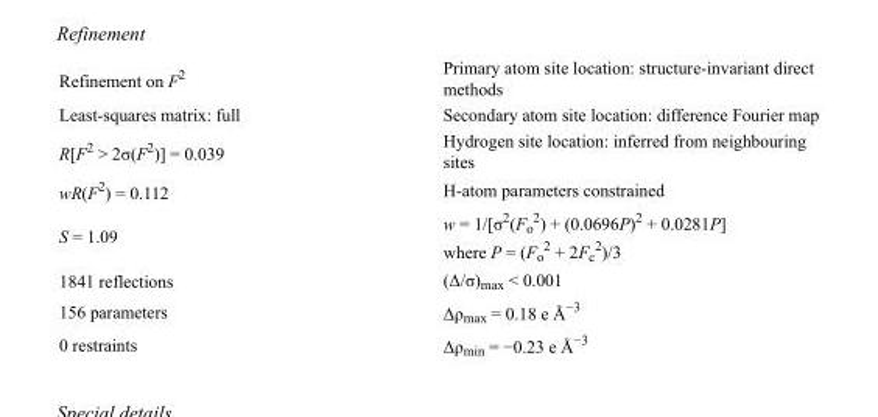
<table><tbody><tr><td>Refinement on F<sup>2</sup></td><td>Primary atom site location: structure-invariant direct methods</td></tr><tr><td>Least-squares matrix: full</td><td>Secondary atom site location: difference Fourier map</td></tr><tr><td>R[F<sup>2</sup> &gt; 2σ(F<sup>2</sup>)] = 0.039</td><td>Hydrogen site location: inferred from neighbouring sites</td></tr><tr><td>wR(F<sup>2</sup>) = 0.112</td><td>H-atom parameters constrained</td></tr><tr><td>S = 1.09</td><td>w = 1/[σ<sup>2</sup>(F<sub>o</sub> <sup>2</sup>) + (0.0696P)<sup>2</sup> + 0.0281P] where P = (F<sub>o</sub> <sup>2</sup> + 2F<sub>c</sub> <sup>2</sup>)/3</td></tr><tr><td>1841 reflections</td><td>(Δ/σ)<sub>max</sub> &lt; 0.001</td></tr><tr><td>156 parameters</td><td>Δρ<sub>max</sub> = 0.18 e Å<sup>−3</sup></td></tr><tr><td>0 restraints</td><td>Δρ<sub>min</sub> = −0.23 e Å<sup>−3</sup></td></tr></tbody></table>